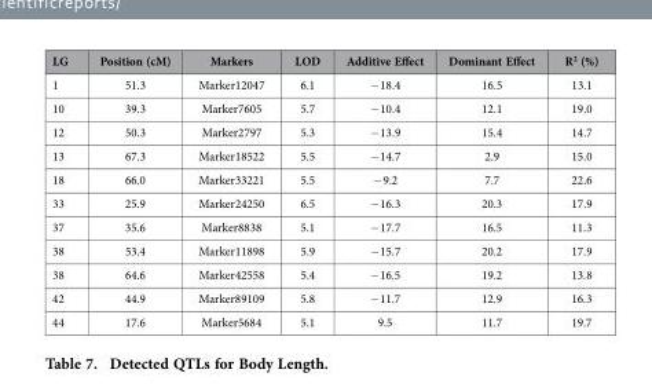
<table><thead><tr><td>LG</td><td>Position (cM)</td><td>Markers</td><td>LOD</td><td>Additive Effect</td><td>Dominant Effect</td><td>R<sup>2</sup> (%)</td></tr></thead><tbody><tr><td>1</td><td>51.3</td><td>Marker12047</td><td>6.1</td><td>− 18.4</td><td>16.5</td><td>13.1</td></tr><tr><td>10</td><td>39.3</td><td>Marker7605</td><td>5.7</td><td>− 10.4</td><td>12.1</td><td>19.0</td></tr><tr><td>12</td><td>50.3</td><td>Marker2797</td><td>5.3</td><td>− 13.9</td><td>15.4</td><td>14.7</td></tr><tr><td>13</td><td>67.3</td><td>Marker18522</td><td>5.5</td><td>− 14.7</td><td>2.9</td><td>15.0</td></tr><tr><td>18</td><td>66.0</td><td>Marker33221</td><td>5.5</td><td>− 9.2</td><td>7.7</td><td>22.6</td></tr><tr><td>33</td><td>25.9</td><td>Marker24250</td><td>6.5</td><td>− 16.3</td><td>20.3</td><td>17.9</td></tr><tr><td>37</td><td>35.6</td><td>Marker8838</td><td>5.1</td><td>− 17.7</td><td>16.5</td><td>11.3</td></tr><tr><td>38</td><td>53.4</td><td>Marker11898</td><td>5.9</td><td>− 15.7</td><td>20.2</td><td>17.9</td></tr><tr><td>38</td><td>64.6</td><td>Marker42558</td><td>5.4</td><td>− 16.5</td><td>19.2</td><td>13.8</td></tr><tr><td>42</td><td>44.9</td><td>Marker89109</td><td>5.8</td><td>− 11.7</td><td>12.9</td><td>16.3</td></tr><tr><td>44</td><td>17.6</td><td>Marker5684</td><td>5.1</td><td>9.5</td><td>11.7</td><td>19.7</td></tr></tbody></table>